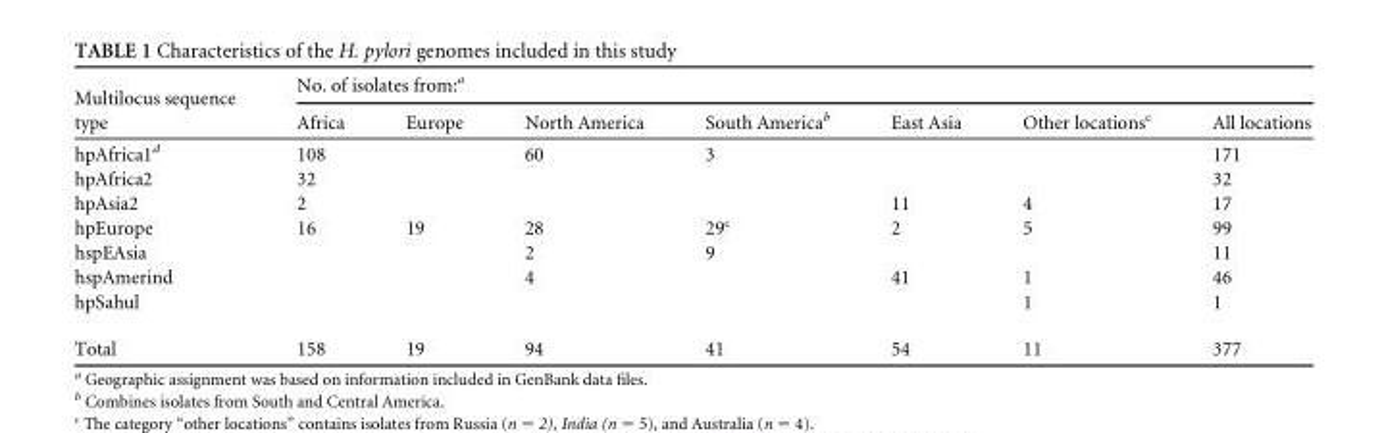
<table><thead><tr><td rowspan="2">Multilocus sequence type</td><td colspan="7">No. of isolates from:<sup>a</sup></td></tr><tr><td>Africa</td><td>Europe</td><td>North America</td><td>South America<sup>b</sup></td><td>East Asia</td><td>Other locations<sup>c</sup></td><td>All locations</td></tr></thead><tbody><tr><td>hpAfrica1<sup>d</sup></td><td>108</td><td></td><td>60</td><td>3</td><td></td><td></td><td>171</td></tr><tr><td>hpAfrica2</td><td>32</td><td></td><td></td><td></td><td></td><td></td><td>32</td></tr><tr><td>hpAsia2</td><td>2</td><td></td><td></td><td></td><td>11</td><td>4</td><td>17</td></tr><tr><td>hpEurope</td><td>16</td><td>19</td><td>28</td><td>29<sup>c</sup></td><td>2</td><td>5</td><td>99</td></tr><tr><td>hspEAsia</td><td></td><td></td><td>2</td><td>9</td><td></td><td></td><td>11</td></tr><tr><td>hspAmerind</td><td></td><td></td><td>4</td><td></td><td>41</td><td>1</td><td>46</td></tr><tr><td>hpSahul</td><td></td><td></td><td></td><td></td><td></td><td>1</td><td>1</td></tr><tr><td>Total</td><td>158</td><td>19</td><td>94</td><td>41</td><td>54</td><td>11</td><td>377</td></tr></tbody></table>